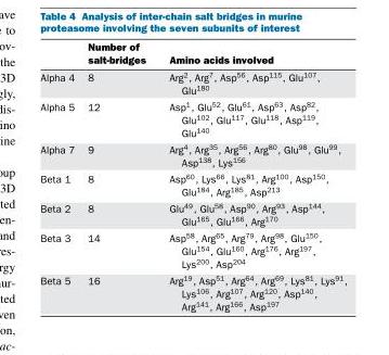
<table><thead><tr><td></td><td>Number of salt-bridges</td><td>Amino acids involved</td></tr></thead><tbody><tr><td>Alpha 4</td><td>8</td><td>Arg<sup>2</sup>, Arg<sup>7</sup>, Asp<sup>56</sup>, Asp<sup>115</sup>, Glu<sup>107</sup>, Glu<sup>180</sup></td></tr><tr><td>Alpha 5</td><td>12</td><td>Asp<sup>1</sup>, Glu<sup>52</sup>, Glu<sup>61</sup>, Asp<sup>63</sup>, Asp<sup>82</sup>, Glu<sup>102</sup>, Glu<sup>117</sup>, Glu<sup>118</sup>, Asp<sup>119</sup>, Glu<sup>140</sup></td></tr><tr><td>Alpha 7</td><td>9</td><td>Arg<sup>4</sup>, Arg<sup>35</sup>, Arg<sup>56</sup>, Arg<sup>80</sup>, Glu<sup>98</sup>, Glu<sup>99</sup>, Asp<sup>138</sup>, Lys<sup>156</sup></td></tr><tr><td>Beta 1</td><td>8</td><td>Asp<sup>60</sup>, Lys<sup>66</sup>, Lys<sup>81</sup>, Arg<sup>100</sup>, Asp<sup>150</sup>, Glu<sup>184</sup>, Arg<sup>185</sup>, Asp<sup>213</sup></td></tr><tr><td>Beta 2</td><td>8</td><td>Glu<sup>49</sup>, Glu<sup>58</sup>, Asp<sup>90</sup>, Arg<sup>93</sup>, Asp<sup>144</sup>, Glu<sup>165</sup>, Glu<sup>166</sup>, Arg<sup>170</sup></td></tr><tr><td>Beta 3</td><td>14</td><td>Asp<sup>58</sup>, Arg<sup>65</sup>, Arg<sup>79</sup>, Arg<sup>98</sup>, Glu<sup>150</sup>, Glu<sup>154</sup>, Glu<sup>160</sup>, Arg<sup>176</sup>, Arg<sup>197</sup>, Lys<sup>200</sup>, Asp<sup>204</sup></td></tr><tr><td>Beta 5</td><td>16</td><td>Arg<sup>19</sup>, Asp<sup>51</sup>, Arg<sup>64</sup>, Arg<sup>69</sup>, Lys<sup>81</sup>, Lys<sup>91</sup>, Lys<sup>106</sup>, Arg<sup>107</sup>, Arg<sup>120</sup>, Asp<sup>140</sup>, Arg<sup>141</sup>, Arg<sup>166</sup>, Asp<sup>197</sup></td></tr></tbody></table>